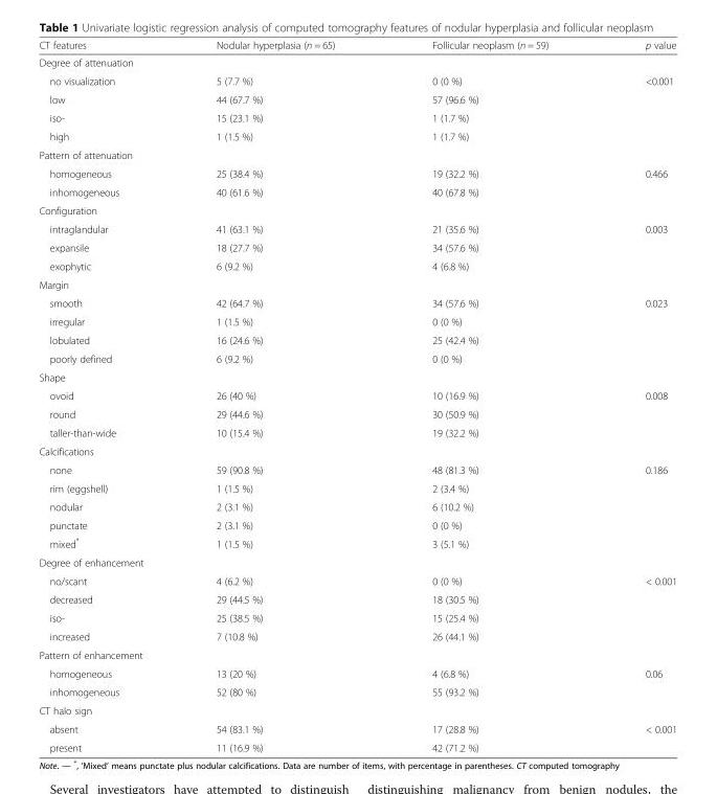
<table><thead><tr><td>CT features</td><td>Nodular hyperplasia (n = 65)</td><td>Follicular neoplasm (n = 59)</td><td>p value</td></tr></thead><tbody><tr><td colspan="4">Degree of attenuation</td></tr><tr><td>no visualization</td><td>5 (7.7 %)</td><td>0 (0 %)</td><td>&lt;0.001</td></tr><tr><td>low</td><td>44 (67.7 %)</td><td>57 (96.6 %)</td><td></td></tr><tr><td>iso-</td><td>15 (23.1 %)</td><td>1 (1.7 %)</td><td></td></tr><tr><td>high</td><td>1 (1.5 %)</td><td>1 (1.7 %)</td><td></td></tr><tr><td colspan="4">Pattern of attenuation</td></tr><tr><td>homogeneous</td><td>25 (38.4 %)</td><td>19 (32.2 %)</td><td>0.466</td></tr><tr><td>inhomogeneous</td><td>40 (61.6 %)</td><td>40 (67.8 %)</td><td></td></tr><tr><td colspan="4">Configuration</td></tr><tr><td>intraglandular</td><td>41 (63.1 %)</td><td>21 (35.6 %)</td><td>0.003</td></tr><tr><td>expansile</td><td>18 (27.7 %)</td><td>34 (57.6 %)</td><td></td></tr><tr><td>exophytic</td><td>6 (9.2 %)</td><td>4 (6.8 %)</td><td></td></tr><tr><td colspan="4">Margin</td></tr><tr><td>smooth</td><td>42 (64.7 %)</td><td>34 (57.6 %)</td><td>0.023</td></tr><tr><td>irregular</td><td>1 (1.5 %)</td><td>0 (0 %)</td><td></td></tr><tr><td>lobulated</td><td>16 (24.6 %)</td><td>25 (42.4 %)</td><td></td></tr><tr><td>poorly defined</td><td>6 (9.2 %)</td><td>0 (0 %)</td><td></td></tr><tr><td colspan="4">Shape</td></tr><tr><td>ovoid</td><td>26 (40 %)</td><td>10 (16.9 %)</td><td>0.008</td></tr><tr><td>round</td><td>29 (44.6 %)</td><td>30 (50.9 %)</td><td></td></tr><tr><td>taller-than-wide</td><td>10 (15.4 %)</td><td>19 (32.2 %)</td><td></td></tr><tr><td colspan="4">Calcifications</td></tr><tr><td>none</td><td>59 (90.8 %)</td><td>48 (81.3 %)</td><td>0.186</td></tr><tr><td>rim (eggshell)</td><td>1 (1.5 %)</td><td>2 (3.4 %)</td><td></td></tr><tr><td>nodular</td><td>2 (3.1 %)</td><td>6 (10.2 %)</td><td></td></tr><tr><td>punctate</td><td>2 (3.1 %)</td><td>0 (0 %)</td><td></td></tr><tr><td>mixed*</td><td>1 (1.5 %)</td><td>3 (5.1 %)</td><td></td></tr><tr><td colspan="4">Degree of enhancement</td></tr><tr><td>no/scant</td><td>4 (6.2 %)</td><td>0 (0 %)</td><td>&lt; 0.001</td></tr><tr><td>decreased</td><td>29 (44.5 %)</td><td>18 (30.5 %)</td><td></td></tr><tr><td>iso-</td><td>25 (38.5 %)</td><td>15 (25.4 %)</td><td></td></tr><tr><td>increased</td><td>7 (10.8 %)</td><td>26 (44.1 %)</td><td></td></tr><tr><td colspan="4">Pattern of enhancement</td></tr><tr><td>homogeneous</td><td>13 (20 %)</td><td>4 (6.8 %)</td><td>0.06</td></tr><tr><td>inhomogeneous</td><td>52 (80 %)</td><td>55 (93.2 %)</td><td></td></tr><tr><td colspan="4">CT halo sign</td></tr><tr><td>absent</td><td>54 (83.1 %)</td><td>17 (28.8 %)</td><td rowspan="2">&lt; 0.001</td></tr><tr><td>present</td><td>11 (16.9 %)</td><td>42 (71.2 %)</td></tr></tbody></table>